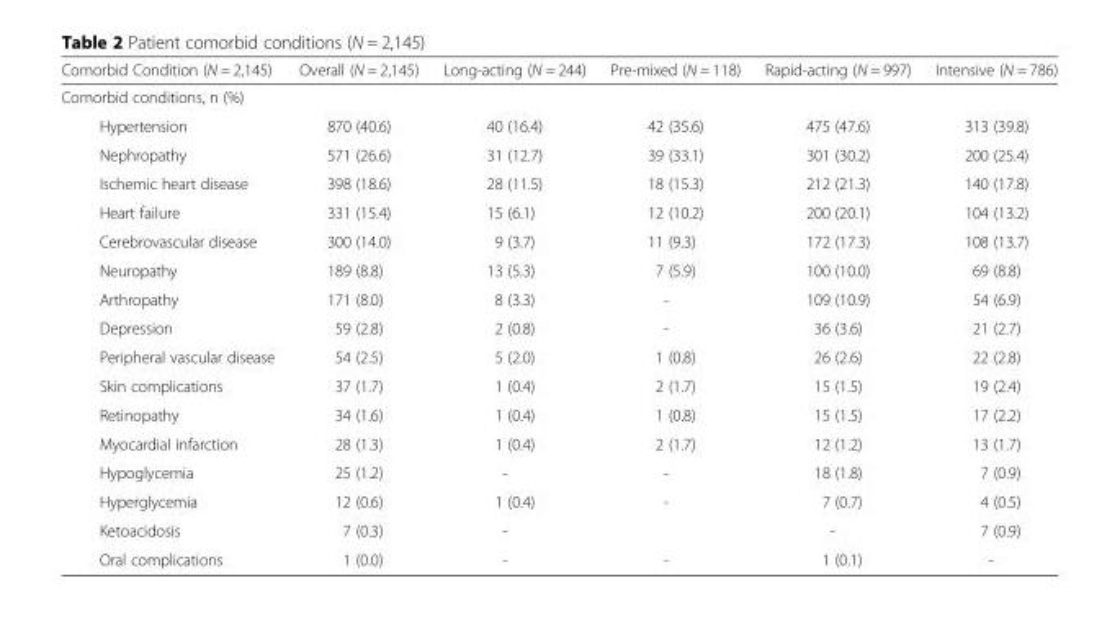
<table><thead><tr><td>Comorbid Condition (N = 2,145)</td><td>Overall (N = 2,145)</td><td>Long-acting (N = 244)</td><td>Pre-mixed (N = 118)</td><td>Rapid-acting (N = 997)</td><td>Intensive (N = 786)</td></tr></thead><tbody><tr><td colspan="6">Comorbid conditions, n (%)</td></tr><tr><td>Hypertension</td><td>870 (40.6)</td><td>40 (16.4)</td><td>42 (35.6)</td><td>475 (47.6)</td><td>313 (39.8)</td></tr><tr><td>Nephropathy</td><td>571 (26.6)</td><td>31 (12.7)</td><td>39 (33.1)</td><td>301 (30.2)</td><td>200 (25.4)</td></tr><tr><td>Ischemic heart disease</td><td>398 (18.6)</td><td>28 (11.5)</td><td>18 (15.3)</td><td>212 (21.3)</td><td>140 (17.8)</td></tr><tr><td>Heart failure</td><td>331 (15.4)</td><td>15 (6.1)</td><td>12 (10.2)</td><td>200 (20.1)</td><td>104 (13.2)</td></tr><tr><td>Cerebrovascular disease</td><td>300 (14.0)</td><td>9 (3.7)</td><td>11 (9.3)</td><td>172 (17.3)</td><td>108 (13.7)</td></tr><tr><td>Neuropathy</td><td>189 (8.8)</td><td>13 (5.3)</td><td>7 (5.9)</td><td>100 (10.0)</td><td>69 (8.8)</td></tr><tr><td>Arthropathy</td><td>171 (8.0)</td><td>8 (3.3)</td><td>-</td><td>109 (10.9)</td><td>54 (6.9)</td></tr><tr><td>Depression</td><td>59 (2.8)</td><td>2 (0.8)</td><td>-</td><td>36 (3.6)</td><td>21 (2.7)</td></tr><tr><td>Peripheral vascular disease</td><td>54 (2.5)</td><td>5 (2.0)</td><td>1 (0.8)</td><td>26 (2.6)</td><td>22 (2.8)</td></tr><tr><td>Skin complications</td><td>37 (1.7)</td><td>1 (0.4)</td><td>2 (1.7)</td><td>15 (1.5)</td><td>19 (2.4)</td></tr><tr><td>Retinopathy</td><td>34 (1.6)</td><td>1 (0.4)</td><td>1 (0.8)</td><td>15 (1.5)</td><td>17 (2.2)</td></tr><tr><td>Myocardial infarction</td><td>28 (1.3)</td><td>1 (0.4)</td><td>2 (1.7)</td><td>12 (1.2)</td><td>13 (1.7)</td></tr><tr><td>Hypoglycemia</td><td>25 (1.2)</td><td>-</td><td>-</td><td>18 (1.8)</td><td>7 (0.9)</td></tr><tr><td>Hyperglycemia</td><td>12 (0.6)</td><td>1 (0.4)</td><td>-</td><td>7 (0.7)</td><td>4 (0.5)</td></tr><tr><td>Ketoacidosis</td><td>7 (0.3)</td><td>-</td><td></td><td>-</td><td>7 (0.9)</td></tr><tr><td>Oral complications</td><td>1 (0.0)</td><td>-</td><td>-</td><td>1 (0.1)</td><td>-</td></tr></tbody></table>